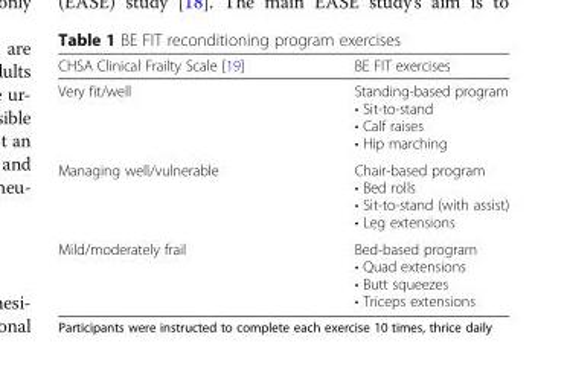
<table><thead><tr><td>CHSA Clinical Frailty Scale [19]</td><td>BE FIT exercises</td></tr></thead><tbody><tr><td>Very fit/well</td><td>Standing-based program • Sit-to-stand • Calf raises • Hip marching</td></tr><tr><td>Managing well/vulnerable</td><td>Chair-based program • Bed rolls • Sit-to-stand (with assist) • Leg extensions</td></tr><tr><td>Mild/moderately frail</td><td>Bed-based program • Quad extensions • Butt squeezes • Triceps extensions</td></tr></tbody></table>